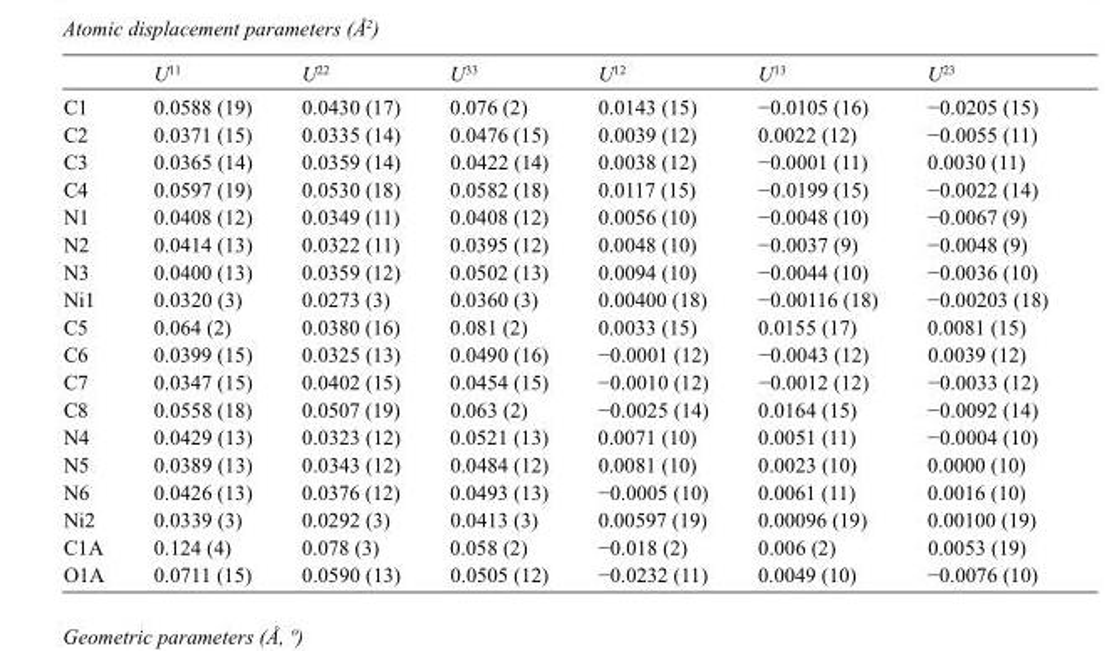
<table><thead><tr><td></td><td>U<sup>11</sup></td><td>U<sup>22</sup></td><td>U<sup>33</sup></td><td>U<sup>12</sup></td><td>U<sup>13</sup></td><td>U<sup>23</sup></td></tr></thead><tbody><tr><td>C1</td><td>0.0588 (19)</td><td>0.0430 (17)</td><td>0.076 (2)</td><td>0.0143 (15)</td><td>−0.0105 (16)</td><td>−0.0205 (15)</td></tr><tr><td>C2</td><td>0.0371 (15)</td><td>0.0335 (14)</td><td>0.0476 (15)</td><td>0.0039 (12)</td><td>0.0022 (12)</td><td>−0.0055 (11)</td></tr><tr><td>C3</td><td>0.0365 (14)</td><td>0.0359 (14)</td><td>0.0422 (14)</td><td>0.0038 (12)</td><td>−0.0001 (11)</td><td>0.0030 (11)</td></tr><tr><td>C4</td><td>0.0597 (19)</td><td>0.0530 (18)</td><td>0.0582 (18)</td><td>0.0117 (15)</td><td>−0.0199 (15)</td><td>−0.0022 (14)</td></tr><tr><td>N1</td><td>0.0408 (12)</td><td>0.0349 (11)</td><td>0.0408 (12)</td><td>0.0056 (10)</td><td>−0.0048 (10)</td><td>−0.0067 (9)</td></tr><tr><td>N2</td><td>0.0414 (13)</td><td>0.0322 (11)</td><td>0.0395 (12)</td><td>0.0048 (10)</td><td>−0.0037 (9)</td><td>−0.0048 (9)</td></tr><tr><td>N3</td><td>0.0400 (13)</td><td>0.0359 (12)</td><td>0.0502 (13)</td><td>0.0094 (10)</td><td>−0.0044 (10)</td><td>−0.0036 (10)</td></tr><tr><td>Ni1</td><td>0.0320 (3)</td><td>0.0273 (3)</td><td>0.0360 (3)</td><td>0.00400 (18)</td><td>−0.00116 (18)</td><td>−0.00203 (18)</td></tr><tr><td>C5</td><td>0.064 (2)</td><td>0.0380 (16)</td><td>0.081 (2)</td><td>0.0033 (15)</td><td>0.0155 (17)</td><td>0.0081 (15)</td></tr><tr><td>C6</td><td>0.0399 (15)</td><td>0.0325 (13)</td><td>0.0490 (16)</td><td>−0.0001 (12)</td><td>−0.0043 (12)</td><td>0.0039 (12)</td></tr><tr><td>C7</td><td>0.0347 (15)</td><td>0.0402 (15)</td><td>0.0454 (15)</td><td>−0.0010 (12)</td><td>−0.0012 (12)</td><td>−0.0033 (12)</td></tr><tr><td>C8</td><td>0.0558 (18)</td><td>0.0507 (19)</td><td>0.063 (2)</td><td>−0.0025 (14)</td><td>0.0164 (15)</td><td>−0.0092 (14)</td></tr><tr><td>N4</td><td>0.0429 (13)</td><td>0.0323 (12)</td><td>0.0521 (13)</td><td>0.0071 (10)</td><td>0.0051 (11)</td><td>−0.0004 (10)</td></tr><tr><td>N5</td><td>0.0389 (13)</td><td>0.0343 (12)</td><td>0.0484 (12)</td><td>0.0081 (10)</td><td>0.0023 (10)</td><td>0.0000 (10)</td></tr><tr><td>N6</td><td>0.0426 (13)</td><td>0.0376 (12)</td><td>0.0493 (13)</td><td>−0.0005 (10)</td><td>0.0061 (11)</td><td>0.0016 (10)</td></tr><tr><td>Ni2</td><td>0.0339 (3)</td><td>0.0292 (3)</td><td>0.0413 (3)</td><td>0.00597 (19)</td><td>0.00096 (19)</td><td>0.00100 (19)</td></tr><tr><td>C1A</td><td>0.124 (4)</td><td>0.078 (3)</td><td>0.058 (2)</td><td>−0.018 (2)</td><td>0.006 (2)</td><td>0.0053 (19)</td></tr><tr><td>O1A</td><td>0.0711 (15)</td><td>0.0590 (13)</td><td>0.0505 (12)</td><td>−0.0232 (11)</td><td>0.0049 (10)</td><td>−0.0076 (10)</td></tr></tbody></table>